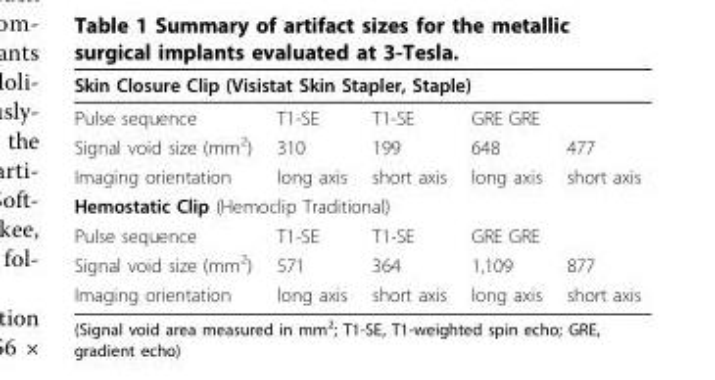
<table><thead><tr><td colspan="5">Skin Closure Clip (Visistat Skin Stapler, Staple)</td></tr><tr><td>Pulse sequence</td><td>T1-SE</td><td>T1-SE</td><td>GRE GRE</td><td></td></tr></thead><tbody><tr><td>Signal void size (mm<sup>2</sup>)</td><td>310</td><td>199</td><td>648</td><td>477</td></tr><tr><td>Imaging orientation</td><td>long axis</td><td>short axis</td><td>long axis</td><td>short axis</td></tr><tr><td colspan="5">Hemostatic Clip (Hemoclip Traditional)</td></tr><tr><td>Pulse sequence</td><td>T1-SE</td><td>T1-SE</td><td>GRE GRE</td><td></td></tr><tr><td>Signal void size (mm<sup>2</sup>)</td><td>571</td><td>364</td><td>1,109</td><td>877</td></tr><tr><td>Imaging orientation</td><td>long axis</td><td>short axis</td><td>long axis</td><td>short axis</td></tr></tbody></table>